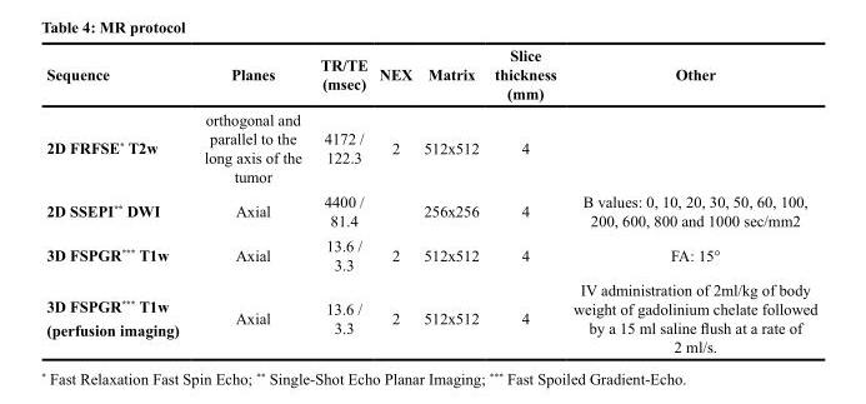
<table><thead><tr><td>Sequence</td><td>Planes</td><td>TR/TE (msec)</td><td>NEX</td><td>Matrix</td><td>Slice thickness (mm)</td><td>Other</td></tr></thead><tbody><tr><td>2D FRFSE* T2w</td><td>orthogonal and parallel to the long axis of the tumor</td><td>4172 / 122.3</td><td>2</td><td>512x512</td><td>4</td><td></td></tr><tr><td>2D SSEPI** DWI</td><td>Axial</td><td>4400 / 81.4</td><td></td><td>256x256</td><td>4</td><td>B values: 0, 10, 20, 30, 50, 60, 100, 200, 600, 800 and 1000 sec/mm2</td></tr><tr><td>3D FSPGR*** T1w</td><td>Axial</td><td>13.6 / 3.3</td><td>2</td><td>512x512</td><td>4</td><td>FA: 15°</td></tr><tr><td>3D FSPGR*** T1w (perfusion imaging)</td><td>Axial</td><td>13.6 / 3.3</td><td>2</td><td>512x512</td><td>4</td><td>IV administration of 2ml/kg of body weight of gadolinium chelate followed by a 15 ml saline flush at a rate of 2 ml/s.</td></tr></tbody></table>